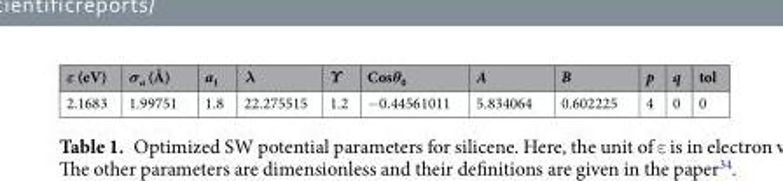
<table><thead><tr><td>ε (eV)</td><td>σ<sub>a</sub> (Å)</td><td>a<sub>1</sub></td><td>λ</td><td>ϒ</td><td>Cosθ<sub>0</sub></td><td>A</td><td>B</td><td>p</td><td>q</td><td>tol</td></tr></thead><tbody><tr><td>2.1683</td><td>1.99751</td><td>1.8</td><td>22.275515</td><td>1.2</td><td>−0.44561011</td><td>5.834064</td><td>0.602225</td><td>4</td><td>0</td><td>0</td></tr></tbody></table>